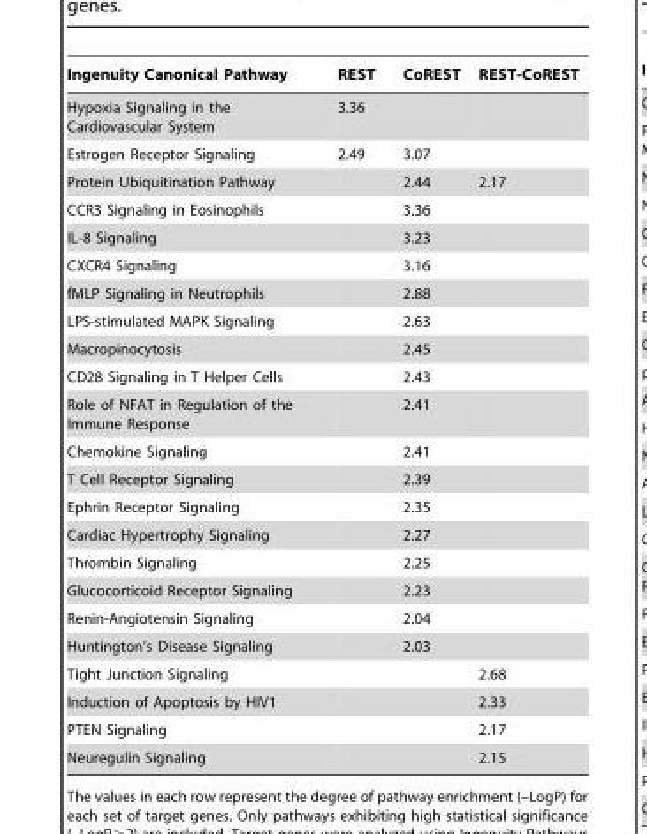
<table><thead><tr><td>Ingenuity Canonical Pathway</td><td>REST</td><td>CoREST</td><td>REST-CoREST</td></tr></thead><tbody><tr><td>Hypoxia Signaling in the Cardiovascular System</td><td>3.36</td><td></td><td></td></tr><tr><td>Estrogen Receptor Signaling</td><td>2.49</td><td>3.07</td><td></td></tr><tr><td>Protein Ubiquitination Pathway</td><td></td><td>2.44</td><td>2.17</td></tr><tr><td>CCR3 Signaling in Eosinophils</td><td></td><td>3.36</td><td></td></tr><tr><td>IL-8 Signaling</td><td></td><td>3.23</td><td></td></tr><tr><td>CXCR4 Signaling</td><td></td><td>3.16</td><td></td></tr><tr><td>fMLP Signaling in Neutrophils</td><td></td><td>2.88</td><td></td></tr><tr><td>LPS-stimulated MAPK Signaling</td><td></td><td>2.63</td><td></td></tr><tr><td>Macropinocytosis</td><td></td><td>2.45</td><td></td></tr><tr><td>CD28 Signaling in T Helper Cells</td><td></td><td>2.43</td><td></td></tr><tr><td>Role of NFAT in Regulation of the Immune Response</td><td></td><td>2.41</td><td></td></tr><tr><td>Chemokine Signaling</td><td></td><td>2.41</td><td></td></tr><tr><td>T Cell Receptor Signaling</td><td></td><td>2.39</td><td></td></tr><tr><td>Ephrin Receptor Signaling</td><td></td><td>2.35</td><td></td></tr><tr><td>Cardiac Hypertrophy Signaling</td><td></td><td>2.27</td><td></td></tr><tr><td>Thrombin Signaling</td><td></td><td>2.25</td><td></td></tr><tr><td>Glucocorticoid Receptor Signaling</td><td></td><td>2.23</td><td></td></tr><tr><td>Renin-Angiotensin Signaling</td><td></td><td>2.04</td><td></td></tr><tr><td>Huntington’s Disease Signaling</td><td></td><td>2.03</td><td></td></tr><tr><td>Tight Junction Signaling</td><td></td><td></td><td>2.68</td></tr><tr><td>Induction of Apoptosis by HIV1</td><td></td><td></td><td>2.33</td></tr><tr><td>PTEN Signaling</td><td></td><td></td><td>2.17</td></tr><tr><td>Neuregulin Signaling</td><td></td><td></td><td>2.15</td></tr></tbody></table>